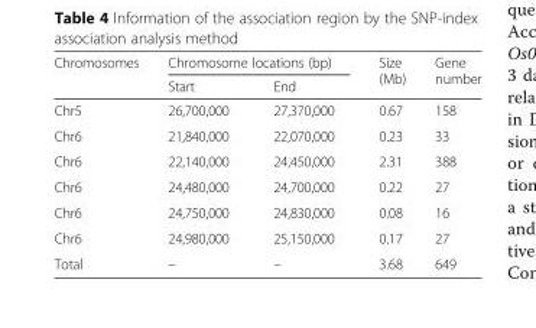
<table><thead><tr><td rowspan="2">Chromosomes</td><td colspan="2">Chromosome locations (bp)</td><td rowspan="2">Size (Mb)</td><td rowspan="2">Gene number</td></tr><tr><td>Start</td><td>End</td></tr></thead><tbody><tr><td>Chr5</td><td>26,700,000</td><td>27,370,000</td><td>0.67</td><td>158</td></tr><tr><td>Chr6</td><td>21,840,000</td><td>22,070,000</td><td>0.23</td><td>33</td></tr><tr><td>Chr6</td><td>22,140,000</td><td>24,450,000</td><td>2.31</td><td>388</td></tr><tr><td>Chr6</td><td>24,480,000</td><td>24,700,000</td><td>0.22</td><td>27</td></tr><tr><td>Chr6</td><td>24,750,000</td><td>24,830,000</td><td>0.08</td><td>16</td></tr><tr><td>Chr6</td><td>24,980,000</td><td>25,150,000</td><td>0.17</td><td>27</td></tr><tr><td>Total</td><td>–</td><td>–</td><td>3.68</td><td>649</td></tr></tbody></table>